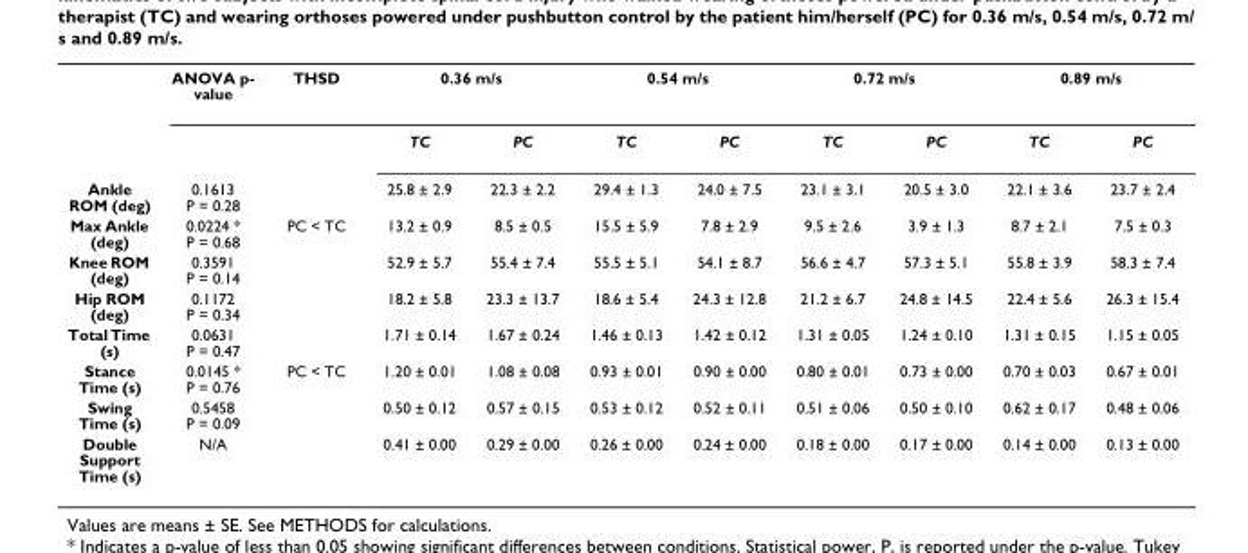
<table><thead><tr><td rowspan="2"></td><td rowspan="2">ANOVA p- value</td><td rowspan="2">THSD</td><td colspan="2">0.36 m/s</td><td colspan="2">0.54 m/s</td><td colspan="2">0.72 m/s</td><td colspan="2">0.89 m/s</td></tr><tr><td>TC</td><td>PC</td><td>TC</td><td>PC</td><td>TC</td><td>PC</td><td>TC</td><td>PC</td></tr></thead><tbody><tr><td>Ankle ROM (deg)</td><td>0.1613 P = 0.28</td><td></td><td>25.8 ± 2.9</td><td>22.3 ± 2.2</td><td>29.4 ± 1.3</td><td>24.0 ± 7.5</td><td>23.1 ± 3.1</td><td>20.5 ± 3.0</td><td>22.1 ± 3.6</td><td>23.7 ± 2.4</td></tr><tr><td>Max Ankle (deg)</td><td>0.0224 * P = 0.68</td><td>PC &lt; TC</td><td>13.2 ± 0.9</td><td>8.5 ± 0.5</td><td>15.5 ± 5.9</td><td>7.8 ± 2.9</td><td>9.5 ± 2.6</td><td>3.9 ± 1.3</td><td>8.7 ± 2.1</td><td>7.5 ± 0.3</td></tr><tr><td>Knee ROM (deg)</td><td>0.3591 P = 0.14</td><td></td><td>52.9 ± 5.7</td><td>55.4 ± 7.4</td><td>55.5 ± 5.1</td><td>54.1 ± 8.7</td><td>56.6 ± 4.7</td><td>57.3 ± 5.1</td><td>55.8 ± 3.9</td><td>58.3 ± 7.4</td></tr><tr><td>Hip ROM (deg)</td><td>0.1172 P = 0.34</td><td></td><td>18.2 ± 5.8</td><td>23.3 ± 13.7</td><td>18.6 ± 5.4</td><td>24.3 ± 12.8</td><td>21.2 ± 6.7</td><td>24.8 ± 14.5</td><td>22.4 ± 5.6</td><td>26.3 ± 15.4</td></tr><tr><td>Total Time (s)</td><td>0.0631 P = 0.47</td><td></td><td>1.71 ± 0.14</td><td>1.67 ± 0.24</td><td>1.46 ± 0.13</td><td>1.42 ± 0.12</td><td>1.31 ± 0.05</td><td>1.24 ± 0.10</td><td>1.31 ± 0.15</td><td>1.15 ± 0.05</td></tr><tr><td>Stance Time (s)</td><td>0.0145 * P = 0.76</td><td>PC &lt; TC</td><td>1.20 ± 0.01</td><td>1.08 ± 0.08</td><td>0.93 ± 0.01</td><td>0.90 ± 0.00</td><td>0.80 ± 0.01</td><td>0.73 ± 0.00</td><td>0.70 ± 0.03</td><td>0.67 ± 0.01</td></tr><tr><td>Swing Time (s)</td><td>0.5458 P = 0.09</td><td></td><td>0.50 ± 0.12</td><td>0.57 ± 0.15</td><td>0.53 ± 0.12</td><td>0.52 ± 0.11</td><td>0.51 ± 0.06</td><td>0.50 ± 0.10</td><td>0.62 ± 0.17</td><td>0.48 ± 0.06</td></tr><tr><td>Double Support Time (s)</td><td>N/A</td><td></td><td>0.41 ± 0.00</td><td>0.29 ± 0.00</td><td>0.26 ± 0.00</td><td>0.24 ± 0.00</td><td>0.18 ± 0.00</td><td>0.17 ± 0.00</td><td>0.14 ± 0.00</td><td>0.13 ± 0.00</td></tr></tbody></table>